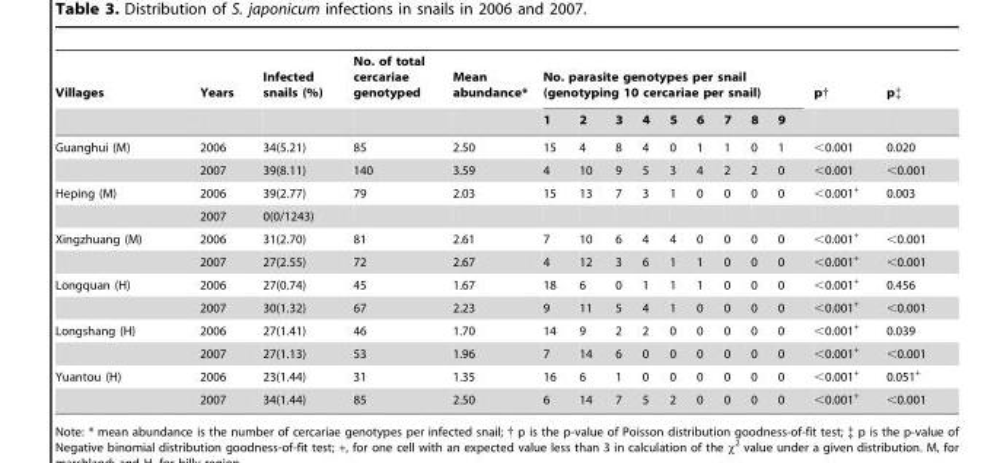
<table><thead><tr><td rowspan="2">Villages</td><td rowspan="2">Years</td><td rowspan="2">Infected snails (%)</td><td rowspan="2">No. of total cercariae genotyped</td><td rowspan="2">Mean abundance*</td><td colspan="9">No. parasite genotypes per snail (genotyping 10 cercariae per snail)</td><td rowspan="2">p†</td><td rowspan="2">p‡</td></tr><tr><td>1</td><td>2</td><td>3</td><td>4</td><td>5</td><td>6</td><td>7</td><td>8</td><td>9</td></tr></thead><tbody><tr><td rowspan="2">Guanghui (M)</td><td>2006</td><td>34(5.21)</td><td>85</td><td>2.50</td><td>15</td><td>4</td><td>8</td><td>4</td><td>0</td><td>1</td><td>1</td><td>0</td><td>1</td><td>&lt;0.001</td><td>0.020</td></tr><tr><td>2007</td><td>39(8.11)</td><td>140</td><td>3.59</td><td>4</td><td>10</td><td>9</td><td>5</td><td>3</td><td>4</td><td>2</td><td>2</td><td>0</td><td>&lt;0.001</td><td>&lt;0.001</td></tr><tr><td rowspan="2">Heping (M)</td><td>2006</td><td>39(2.77)</td><td>79</td><td>2.03</td><td>15</td><td>13</td><td>7</td><td>3</td><td>1</td><td>0</td><td>0</td><td>0</td><td>0</td><td>&lt;0.001<sup>+</sup></td><td>0.003</td></tr><tr><td>2007</td><td>0(0/1243)</td><td></td><td></td><td></td><td></td><td></td><td></td><td></td><td></td><td></td><td></td><td></td><td></td><td></td></tr><tr><td rowspan="2">Xingzhuang (M)</td><td>2006</td><td>31(2.70)</td><td>81</td><td>2.61</td><td>7</td><td>10</td><td>6</td><td>4</td><td>4</td><td>0</td><td>0</td><td>0</td><td>0</td><td>&lt;0.001<sup>+</sup></td><td>&lt;0.001</td></tr><tr><td>2007</td><td>27(2.55)</td><td>72</td><td>2.67</td><td>4</td><td>12</td><td>3</td><td>6</td><td>1</td><td>1</td><td>0</td><td>0</td><td>0</td><td>&lt;0.001<sup>+</sup></td><td>&lt;0.001</td></tr><tr><td rowspan="2">Longquan (H)</td><td>2006</td><td>27(0.74)</td><td>45</td><td>1.67</td><td>18</td><td>6</td><td>0</td><td>1</td><td>1</td><td>1</td><td>0</td><td>0</td><td>0</td><td>&lt;0.001<sup>+</sup></td><td>0.456</td></tr><tr><td>2007</td><td>30(1.32)</td><td>67</td><td>2.23</td><td>9</td><td>11</td><td>5</td><td>4</td><td>1</td><td>0</td><td>0</td><td>0</td><td>0</td><td>&lt;0.001<sup>+</sup></td><td>&lt;0.001</td></tr><tr><td rowspan="2">Longshang (H)</td><td>2006</td><td>27(1.41)</td><td>46</td><td>1.70</td><td>14</td><td>9</td><td>2</td><td>2</td><td>0</td><td>0</td><td>0</td><td>0</td><td>0</td><td>&lt;0.001<sup>+</sup></td><td>0.039</td></tr><tr><td>2007</td><td>27(1.13)</td><td>53</td><td>1.96</td><td>7</td><td>14</td><td>6</td><td>0</td><td>0</td><td>0</td><td>0</td><td>0</td><td>0</td><td>&lt;0.001<sup>+</sup></td><td>&lt;0.001</td></tr><tr><td rowspan="2">Yuantou (H)</td><td>2006</td><td>23(1.44)</td><td>31</td><td>1.35</td><td>16</td><td>6</td><td>1</td><td>0</td><td>0</td><td>0</td><td>0</td><td>0</td><td>0</td><td>&lt;0.001<sup>+</sup></td><td>0.051<sup>+</sup></td></tr><tr><td>2007</td><td>34(1.44)</td><td>85</td><td>2.50</td><td>6</td><td>14</td><td>7</td><td>5</td><td>2</td><td>0</td><td>0</td><td>0</td><td>0</td><td>&lt;0.001<sup>+</sup></td><td>&lt;0.001</td></tr></tbody></table>